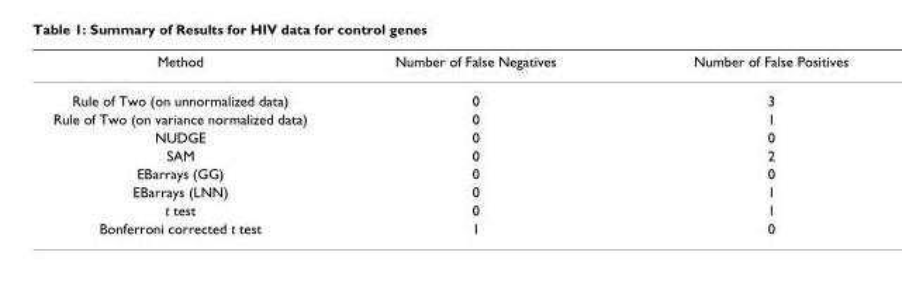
<table><thead><tr><td>Method</td><td>Number of False Negatives</td><td>Number of False Positives</td></tr></thead><tbody><tr><td>Rule of Two (on unnormalized data)</td><td>0</td><td>3</td></tr><tr><td>Rule of Two (on variance normalized data)</td><td>0</td><td>1</td></tr><tr><td>NUDGE</td><td>0</td><td>0</td></tr><tr><td>SAM</td><td>0</td><td>2</td></tr><tr><td>EBarrays (GG)</td><td>0</td><td>0</td></tr><tr><td>EBarrays (LNN)</td><td>0</td><td>1</td></tr><tr><td>t test</td><td>0</td><td>1</td></tr><tr><td>Bonferroni corrected t test</td><td>1</td><td>0</td></tr></tbody></table>